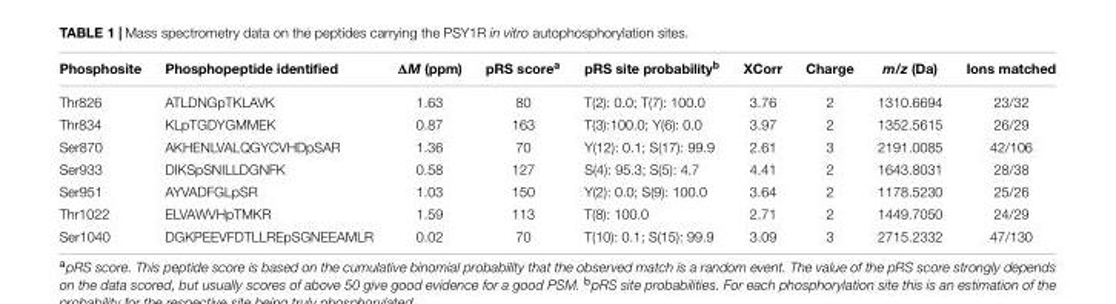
<table><thead><tr><td>Phosphosite</td><td>Phosphopeptide identified</td><td>ΔM (ppm)</td><td>pRS score<sup>a</sup></td><td>pRS site probability<sup>b</sup></td><td>XCorr</td><td>Charge</td><td>m/z (Da)</td><td>Ions matched</td></tr></thead><tbody><tr><td>Thr826</td><td>ATLDNGpTKLAVK</td><td>1.63</td><td>80</td><td>T(2): 0.0; T(7): 100.0</td><td>3.76</td><td>2</td><td>1310.6694</td><td>23/32</td></tr><tr><td>Thr834</td><td>KLpTGDYGMMEK</td><td>0.87</td><td>163</td><td>T(3):100.0; Y(6): 0.0</td><td>3.97</td><td>2</td><td>1352.5615</td><td>26/29</td></tr><tr><td>Ser870</td><td>AKHENLVALQGYCVHDpSAR</td><td>1.36</td><td>70</td><td>Y(12): 0.1; S(17): 99.9</td><td>2.61</td><td>3</td><td>2191.0085</td><td>42/106</td></tr><tr><td>Ser933</td><td>DIKSpSNILLDGNFK</td><td>0.58</td><td>127</td><td>S(4): 95.3; S(5): 4.7</td><td>4.41</td><td>2</td><td>1643.8031</td><td>28/38</td></tr><tr><td>Ser951</td><td>AYVADFGLpSR</td><td>1.03</td><td>150</td><td>Y(2): 0.0; S(9): 100.0</td><td>3.64</td><td>2</td><td>1178.5230</td><td>25/26</td></tr><tr><td>Thr1022</td><td>ELVAWVHpTMKR</td><td>1.59</td><td>113</td><td>T(8): 100.0</td><td>2.71</td><td>2</td><td>1449.7050</td><td>24/29</td></tr><tr><td>Ser1040</td><td>DGKPEEVFDTLLREpSGNEEAMLR</td><td>0.02</td><td>70</td><td>T(10): 0.1; S(15): 99.9</td><td>3.09</td><td>3</td><td>2715.2332</td><td>47/130</td></tr></tbody></table>